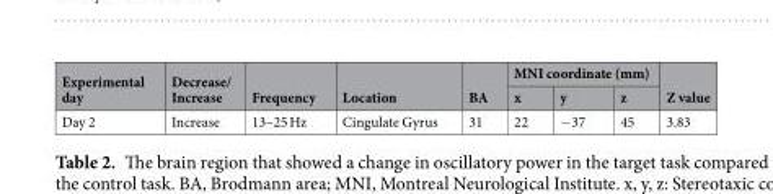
<table><thead><tr><td rowspan="2">Experimental day</td><td rowspan="2">Decrease/ Increase</td><td rowspan="2">Frequency</td><td rowspan="2">Location</td><td rowspan="2">BA</td><td colspan="3">MNI coordinate (mm)</td><td rowspan="2">Z value</td></tr><tr><td>x</td><td>y</td><td>z</td></tr></thead><tbody><tr><td>Day 2</td><td>Increase</td><td>13–25 Hz</td><td>Cingulate Gyrus</td><td>31</td><td>22</td><td>−37</td><td>45</td><td>3.83</td></tr></tbody></table>